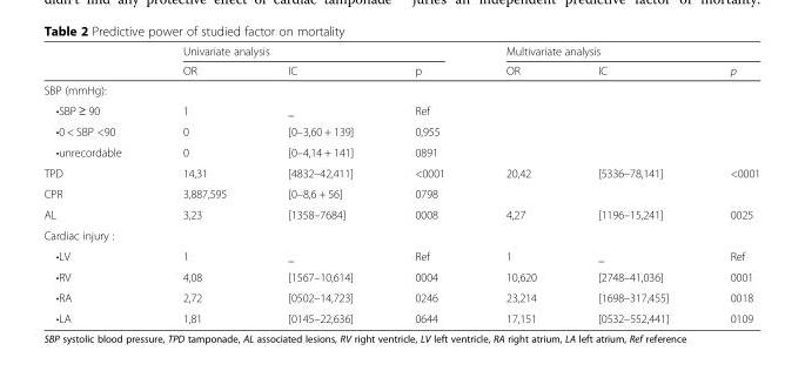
<table><thead><tr><td rowspan="2"></td><td colspan="3">Univariate analysis</td><td colspan="3">Multivariate analysis</td></tr><tr><td>OR</td><td>IC</td><td>p</td><td>OR</td><td>IC</td><td>p</td></tr></thead><tbody><tr><td colspan="7">SBP (mmHg):</td></tr><tr><td>•SBP ≥ 90</td><td>1</td><td>_</td><td>Ref</td><td></td><td></td><td></td></tr><tr><td>•0 &lt; SBP &lt;90</td><td>0</td><td>[0–3,60 + 139]</td><td>0,955</td><td></td><td></td><td></td></tr><tr><td>•unrecordable</td><td>0</td><td>[0–4,14 + 141]</td><td>0891</td><td></td><td></td><td></td></tr><tr><td>TPD</td><td>14,31</td><td>[4832–42,411]</td><td>&lt;0001</td><td>20,42</td><td>[5336–78,141]</td><td>&lt;0001</td></tr><tr><td>CPR</td><td>3,887,595</td><td>[0–8,6 + 56]</td><td>0798</td><td></td><td></td><td></td></tr><tr><td>AL</td><td>3,23</td><td>[1358–7684]</td><td>0008</td><td>4,27</td><td>[1196–15,241]</td><td>0025</td></tr><tr><td colspan="7">Cardiac injury :</td></tr><tr><td>•LV</td><td>1</td><td>_</td><td>Ref</td><td>1</td><td>_</td><td>Ref</td></tr><tr><td>•RV</td><td>4,08</td><td>[1567–10,614]</td><td>0004</td><td>10,620</td><td>[2748–41,036]</td><td>0001</td></tr><tr><td>•RA</td><td>2,72</td><td>[0502–14,723]</td><td>0246</td><td>23,214</td><td>[1698–317,455]</td><td>0018</td></tr><tr><td>•LA</td><td>1,81</td><td>[0145–22,636]</td><td>0644</td><td>17,151</td><td>[0532–552,441]</td><td>0109</td></tr></tbody></table>